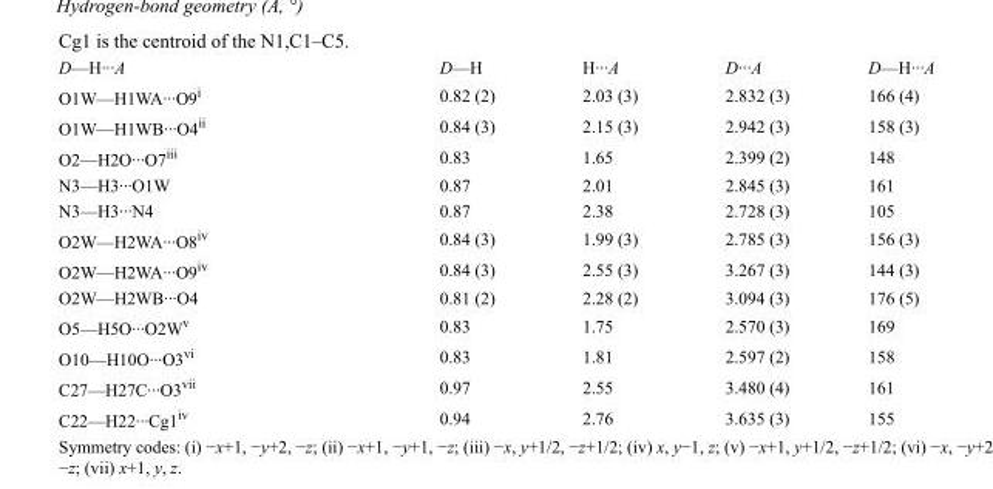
<table><tbody><tr><td>D—H···A</td><td>D—H</td><td>H···A</td><td>D···A</td><td>D—H···A</td></tr><tr><td>O1W—H1WA···O9<sup>i</sup></td><td>0.82 (2)</td><td>2.03 (3)</td><td>2.832 (3)</td><td>166 (4)</td></tr><tr><td>O1W—H1WB···O4<sup>ii</sup></td><td>0.84 (3)</td><td>2.15 (3)</td><td>2.942 (3)</td><td>158 (3)</td></tr><tr><td>O2—H2O···O7<sup>iii</sup></td><td>0.83</td><td>1.65</td><td>2.399 (2)</td><td>148</td></tr><tr><td>N3—H3···O1W</td><td>0.87</td><td>2.01</td><td>2.845 (3)</td><td>161</td></tr><tr><td>N3—H3···N4</td><td>0.87</td><td>2.38</td><td>2.728 (3)</td><td>105</td></tr><tr><td>O2W—H2WA···O8<sup>iv</sup></td><td>0.84 (3)</td><td>1.99 (3)</td><td>2.785 (3)</td><td>156 (3)</td></tr><tr><td>O2W—H2WA···O9<sup>iv</sup></td><td>0.84 (3)</td><td>2.55 (3)</td><td>3.267 (3)</td><td>144 (3)</td></tr><tr><td>O2W—H2WB···O4</td><td>0.81 (2)</td><td>2.28 (2)</td><td>3.094 (3)</td><td>176 (5)</td></tr><tr><td>O5—H5O···O2W<sup>v</sup></td><td>0.83</td><td>1.75</td><td>2.570 (3)</td><td>169</td></tr><tr><td>O10—H10O···O3<sup>vi</sup></td><td>0.83</td><td>1.81</td><td>2.597 (2)</td><td>158</td></tr><tr><td>C27—H27C···O3<sup>vii</sup></td><td>0.97</td><td>2.55</td><td>3.480 (4)</td><td>161</td></tr><tr><td>C22—H22···Cg1<sup>iv</sup></td><td>0.94</td><td>2.76</td><td>3.635 (3)</td><td>155</td></tr></tbody></table>